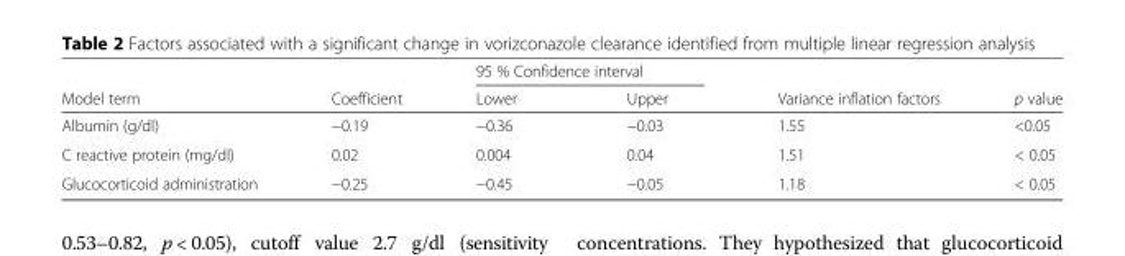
<table><thead><tr><td rowspan="2">Model term</td><td rowspan="2">Coefficient</td><td colspan="2">95 % Confidence interval</td><td rowspan="2">Variance inflation factors</td><td rowspan="2">p value</td></tr><tr><td>Lower</td><td>Upper</td></tr></thead><tbody><tr><td>Albumin (g/dl)</td><td>−0.19</td><td>−0.36</td><td>−0.03</td><td>1.55</td><td>&lt;0.05</td></tr><tr><td>C reactive protein (mg/dl)</td><td>0.02</td><td>0.004</td><td>0.04</td><td>1.51</td><td>&lt; 0.05</td></tr><tr><td>Glucocorticoid administration</td><td>−0.25</td><td>−0.45</td><td>−0.05</td><td>1.18</td><td>&lt; 0.05</td></tr></tbody></table>